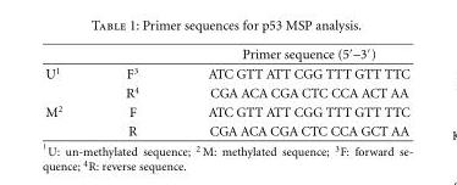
<table><thead><tr><td></td><td></td><td>Primer sequence (5′–3′)</td></tr></thead><tbody><tr><td rowspan="2">U<sup>1</sup></td><td>F<sup>3</sup></td><td>ATC GTT ATT CGG TTT GTT TTC</td></tr><tr><td>R<sup>4</sup></td><td>CGA ACA CGA CTC CCA ACT AA</td></tr><tr><td rowspan="2">M<sup>2</sup></td><td>F</td><td>ATC GTT ATT CGG TTT GTT TTC</td></tr><tr><td>R</td><td>CGA ACA CGA CTC CCA GCT AA</td></tr></tbody></table>